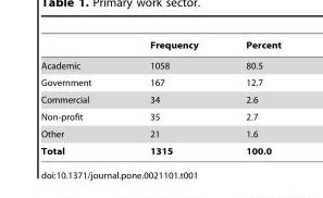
<table><thead><tr><td></td><td>Frequency</td><td>Percent</td></tr></thead><tbody><tr><td>Academic</td><td>1058</td><td>80.5</td></tr><tr><td>Government</td><td>167</td><td>12.7</td></tr><tr><td>Commercial</td><td>34</td><td>2.6</td></tr><tr><td>Non-profit</td><td>35</td><td>2.7</td></tr><tr><td>Other</td><td>21</td><td>1.6</td></tr><tr><td>Total</td><td>1315</td><td>100.0</td></tr></tbody></table>